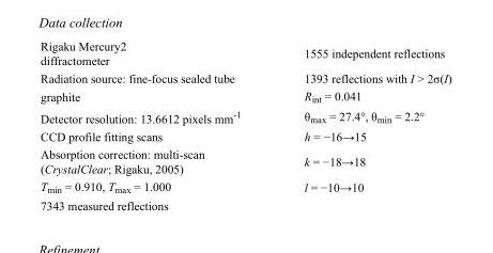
<table><tbody><tr><td>Rigaku Mercury2 diffractometer</td><td>1555 independent reflections</td></tr><tr><td>Radiation source: fine-focus sealed tube</td><td>1393 reflections with I &gt; 2σ(I)</td></tr><tr><td>graphite</td><td>R<sub>int</sub> = 0.041</td></tr><tr><td>Detector resolution: 13.6612 pixels mm<sup>-1</sup></td><td>θ<sub>max</sub> = 27.4°, θ<sub>min</sub> = 2.2°</td></tr><tr><td>CCD profile fitting scans</td><td>h = −16→15</td></tr><tr><td>Absorption correction: multi-scan (CrystalClear; Rigaku, 2005)</td><td>k = −18→18</td></tr><tr><td>T<sub>min</sub> = 0.910, T<sub>max</sub> = 1.000</td><td>l = −10→10</td></tr><tr><td>7343 measured reflections</td><td></td></tr></tbody></table>